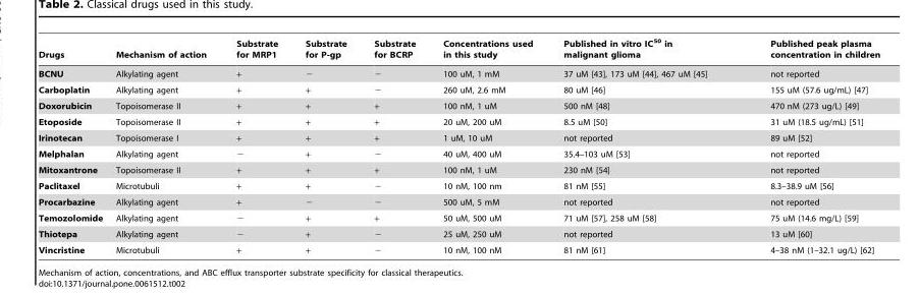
<table><thead><tr><td>Drugs</td><td>Mechanism of action</td><td>Substrate for MRP1</td><td>Substrate for P-gp</td><td>Substrate for BCRP</td><td>Concentrations used in this study</td><td>Published in vitro IC<sup>50</sup> in malignant glioma</td><td>Published peak plasma concentration in children</td></tr></thead><tbody><tr><td>BCNU</td><td>Alkylating agent</td><td>+</td><td>−</td><td>−</td><td>100 uM, 1 mM</td><td>37 uM [43], 173 uM [44], 467 uM [45]</td><td>not reported</td></tr><tr><td>Carboplatin</td><td>Alkylating agent</td><td>+</td><td>+</td><td>−</td><td>260 uM, 2.6 mM</td><td>80 uM [46]</td><td>155 uM (57.6 ug/mL) [47]</td></tr><tr><td>Doxorubicin</td><td>Topoisomerase II</td><td>+</td><td>+</td><td>+</td><td>100 nM, 1 uM</td><td>500 nM [48]</td><td>470 nM (273 ug/L) [49]</td></tr><tr><td>Etoposide</td><td>Topoisomerase II</td><td>+</td><td>+</td><td>+</td><td>20 uM, 200 uM</td><td>8.5 uM [50]</td><td>31 uM (18.5 ug/mL) [51]</td></tr><tr><td>Irinotecan</td><td>Topoisomerase I</td><td>+</td><td>+</td><td>+</td><td>1 uM, 10 uM</td><td>not reported</td><td>89 uM [52]</td></tr><tr><td>Melphalan</td><td>Alkylating agent</td><td>−</td><td>+</td><td>−</td><td>40 uM, 400 uM</td><td>35.4–103 uM [53]</td><td>not reported</td></tr><tr><td>Mitoxantrone</td><td>Topoisomerase II</td><td>+</td><td>+</td><td>+</td><td>100 nM, 1 uM</td><td>230 nM [54]</td><td>not reported</td></tr><tr><td>Paclitaxel</td><td>Microtubuli</td><td>+</td><td>+</td><td>−</td><td>10 nM, 100 nm</td><td>81 nM [55]</td><td>8.3–38.9 uM [56]</td></tr><tr><td>Procarbazine</td><td>Alkylating agent</td><td>+</td><td>−</td><td>−</td><td>500 uM, 5 mM</td><td>not reported</td><td>not reported</td></tr><tr><td>Temozolomide</td><td>Alkylating agent</td><td>−</td><td>+</td><td>+</td><td>50 uM, 500 uM</td><td>71 uM [57], 258 uM [58]</td><td>75 uM (14.6 mg/L) [59]</td></tr><tr><td>Thiotepa</td><td>Alkylating agent</td><td>−</td><td>+</td><td>−</td><td>25 uM, 250 uM</td><td>not reported</td><td>13 uM [60]</td></tr><tr><td>Vincristine</td><td>Microtubuli</td><td>+</td><td>+</td><td>−</td><td>10 nM, 100 nM</td><td>81 nM [61]</td><td>4–38 nM (1–32.1 ug/L) [62]</td></tr></tbody></table>